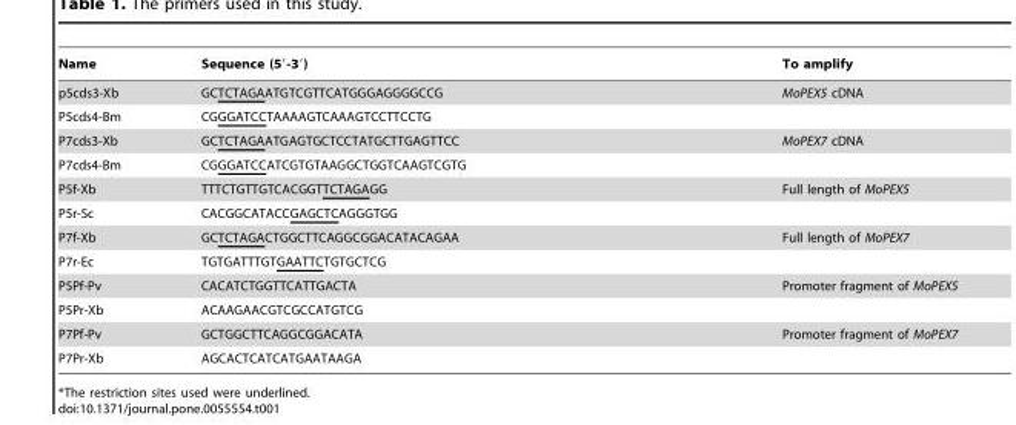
<table><thead><tr><td>Name</td><td>Sequence (5′-3′)</td><td>To amplify</td></tr></thead><tbody><tr><td>p5cds3-Xb</td><td>GCTCTAGAATGTCGTTCATGGGAGGGGCCG</td><td>MoPEX5 cDNA</td></tr><tr><td>P5cds4-Bm</td><td>CGGGATCCTAAAAGTCAAAGTCCTTCCTG</td><td></td></tr><tr><td>P7cds3-Xb</td><td>GCTCTAGAATGAGTGCTCCTATGCTTGAGTTCC</td><td>MoPEX7 cDNA</td></tr><tr><td>P7cds4-Bm</td><td>CGGGATCCATCGTGTAAGGCTGGTCAAGTCGTG</td><td></td></tr><tr><td>P5f-Xb</td><td>TTTCTGTTGTCACGGTTCTAGAGG</td><td>Full length of MoPEX5</td></tr><tr><td>P5r-Sc</td><td>CACGGCATACCGAGCTCAGGGTGG</td><td></td></tr><tr><td>P7f-Xb</td><td>GCTCTAGACTGGCTTCAGGCGGACATACAGAA</td><td>Full length of MoPEX7</td></tr><tr><td>P7r-Ec</td><td>TGTGATTTGTGAATTCTGTGCTCG</td><td></td></tr><tr><td>P5Pf-Pv</td><td>CACATCTGGTTCATTGACTA</td><td>Promoter fragment of MoPEX5</td></tr><tr><td>P5Pr-Xb</td><td>ACAAGAACGTCGCCATGTCG</td><td></td></tr><tr><td>P7Pf-Pv</td><td>GCTGGCTTCAGGCGGACATA</td><td>Promoter fragment of MoPEX7</td></tr><tr><td>P7Pr-Xb</td><td>AGCACTCATCATGAATAAGA</td><td></td></tr></tbody></table>